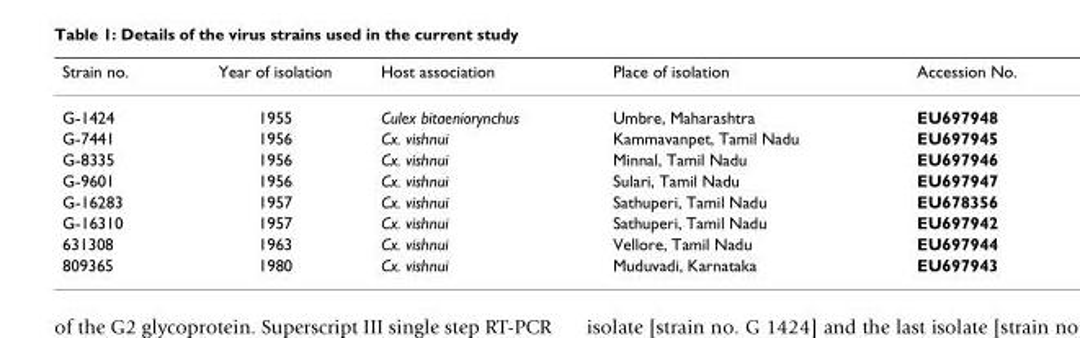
<table><thead><tr><td>Strain no.</td><td>Year of isolation</td><td>Host association</td><td>Place of isolation</td><td>Accession No.</td></tr></thead><tbody><tr><td>G-1424</td><td>1955</td><td>Culex bitaeniorynchus</td><td>Umbre, Maharashtra</td><td>EU697948</td></tr><tr><td>G-7441</td><td>1956</td><td>Cx. vishnui</td><td>Kammavanpet, Tamil Nadu</td><td>EU697945</td></tr><tr><td>G-8335</td><td>1956</td><td>Cx. vishnui</td><td>Minnal, Tamil Nadu</td><td>EU697946</td></tr><tr><td>G-9601</td><td>1956</td><td>Cx. vishnui</td><td>Sulari, Tamil Nadu</td><td>EU697947</td></tr><tr><td>G-16283</td><td>1957</td><td>Cx. vishnui</td><td>Sathuperi, Tamil Nadu</td><td>EU678356</td></tr><tr><td>G-16310</td><td>1957</td><td>Cx. vishnui</td><td>Sathuperi, Tamil Nadu</td><td>EU697942</td></tr><tr><td>631308</td><td>1963</td><td>Cx. vishnui</td><td>Vellore, Tamil Nadu</td><td>EU697944</td></tr><tr><td>809365</td><td>1980</td><td>Cx. vishnui</td><td>Muduvadi, Karnataka</td><td>EU697943</td></tr></tbody></table>